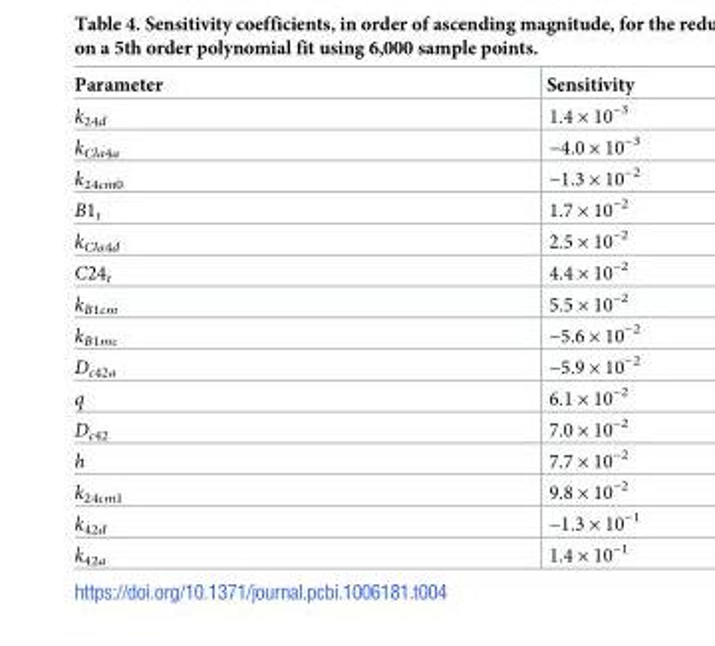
<table><thead><tr><td>Parameter</td><td>Sensitivity</td></tr></thead><tbody><tr><td>k<sub>24d</sub></td><td>1.4 × 10<sup>−3</sup></td></tr><tr><td>k<sub>Cla4a</sub></td><td>−4.0 × 10<sup>−3</sup></td></tr><tr><td>k<sub>24cm0</sub></td><td>−1.3 × 10<sup>−2</sup></td></tr><tr><td>B1<sub>t</sub></td><td>1.7 × 10<sup>−2</sup></td></tr><tr><td>k<sub>Cla4d</sub></td><td>2.5 × 10<sup>−2</sup></td></tr><tr><td>C24<sub>t</sub></td><td>4.4 × 10<sup>−2</sup></td></tr><tr><td>k<sub>B1cm</sub></td><td>5.5 × 10<sup>−2</sup></td></tr><tr><td>k<sub>B1mc</sub></td><td>−5.6 × 10<sup>−2</sup></td></tr><tr><td>D<sub>c42a</sub></td><td>−5.9 × 10<sup>−2</sup></td></tr><tr><td>q</td><td>6.1 × 10<sup>−2</sup></td></tr><tr><td>D<sub>c42</sub></td><td>7.0 × 10<sup>−2</sup></td></tr><tr><td>h</td><td>7.7 × 10<sup>−2</sup></td></tr><tr><td>k<sub>24cm1</sub></td><td>9.8 × 10<sup>−2</sup></td></tr><tr><td>k<sub>42d</sub></td><td>−1.3 × 10<sup>−1</sup></td></tr><tr><td>k<sub>42a</sub></td><td>1.4 × 10<sup>−1</sup></td></tr></tbody></table>